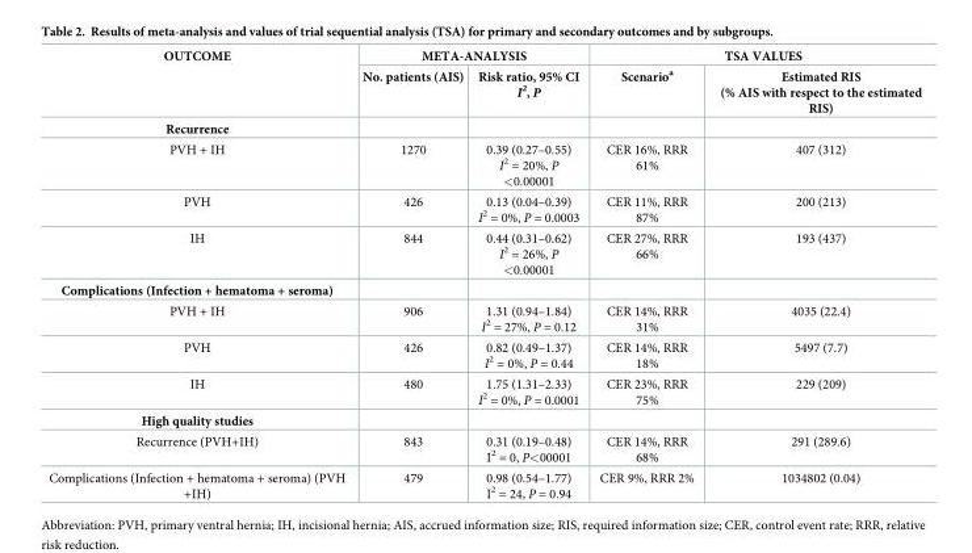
<table><thead><tr><td rowspan="2">OUTCOME</td><td colspan="2">META-ANALYSIS</td><td colspan="2">TSA VALUES</td></tr><tr><td>No. patients (AIS)</td><td>Risk ratio, 95% CI I<sup>2</sup>, P</td><td>Scenario<sup>a</sup></td><td>Estimated RIS (% AIS with respect to the estimated RIS)</td></tr></thead><tbody><tr><td colspan="5">Recurrence</td></tr><tr><td>PVH + IH</td><td>1270</td><td>0.39 (0.27–0.55) I<sup>2</sup> = 20%, P &lt;0.00001</td><td>CER 16%, RRR 61%</td><td>407 (312)</td></tr><tr><td>PVH</td><td>426</td><td>0.13 (0.04–0.39) I<sup>2</sup> = 0%, P = 0.0003</td><td>CER 11%, RRR 87%</td><td>200 (213)</td></tr><tr><td>IH</td><td>844</td><td>0.44 (0.31–0.62) I<sup>2</sup> = 26%, P &lt;0.00001</td><td>CER 27%, RRR 66%</td><td>193 (437)</td></tr><tr><td colspan="5">Complications (Infection + hematoma + seroma)</td></tr><tr><td>PVH + IH</td><td>906</td><td>1.31 (0.94–1.84) I<sup>2</sup> = 27%, P = 0.12</td><td>CER 14%, RRR 31%</td><td>4035 (22.4)</td></tr><tr><td>PVH</td><td>426</td><td>0.82 (0.49–1.37) I<sup>2</sup> = 0%, P = 0.44</td><td>CER 14%, RRR 18%</td><td>5497 (7.7)</td></tr><tr><td>IH</td><td>480</td><td>1.75 (1.31–2.33) I<sup>2</sup> = 0%, P = 0.0001</td><td>CER 23%, RRR 75%</td><td>229 (209)</td></tr><tr><td colspan="5">High quality studies</td></tr><tr><td>Recurrence (PVH+IH)</td><td>843</td><td>0.31 (0.19–0.48) I<sup>2</sup> = 0, P&lt;00001</td><td>CER 14%, RRR 68%</td><td>291 (289.6)</td></tr><tr><td>Complications (Infection + hematoma + seroma) (PVH +IH)</td><td>479</td><td>0.98 (0.54–1.77) I<sup>2</sup> = 24, P = 0.94</td><td>CER 9%, RRR 2%</td><td>1034802 (0.04)</td></tr></tbody></table>